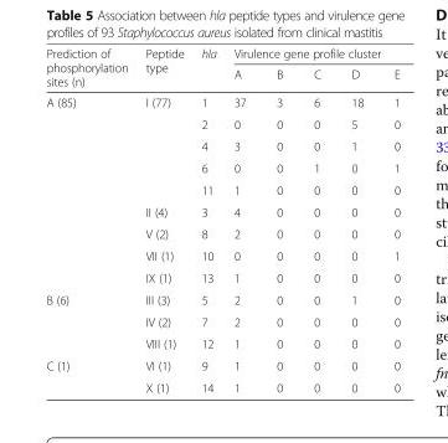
<table><thead><tr><td rowspan="2">Prediction of phosphorylation sites (n)</td><td rowspan="2">Peptide type</td><td rowspan="2">hla</td><td colspan="5">Virulence gene profile cluster</td></tr><tr><td>A</td><td>B</td><td>C</td><td>D</td><td>E</td></tr></thead><tbody><tr><td rowspan="9">A (85)</td><td rowspan="5">I (77)</td><td>1</td><td>37</td><td>3</td><td>6</td><td>18</td><td>1</td></tr><tr><td>2</td><td>0</td><td>0</td><td>0</td><td>5</td><td>0</td></tr><tr><td>4</td><td>3</td><td>0</td><td>0</td><td>1</td><td>0</td></tr><tr><td>6</td><td>0</td><td>0</td><td>1</td><td>0</td><td>1</td></tr><tr><td>11</td><td>1</td><td>0</td><td>0</td><td>0</td><td>0</td></tr><tr><td>II (4)</td><td>3</td><td>4</td><td>0</td><td>0</td><td>0</td><td>0</td></tr><tr><td>V (2)</td><td>8</td><td>2</td><td>0</td><td>0</td><td>0</td><td>0</td></tr><tr><td>VII (1)</td><td>10</td><td>0</td><td>0</td><td>0</td><td>0</td><td>1</td></tr><tr><td>IX (1)</td><td>13</td><td>1</td><td>0</td><td>0</td><td>0</td><td>0</td></tr><tr><td rowspan="3">B (6)</td><td>III (3)</td><td>5</td><td>2</td><td>0</td><td>0</td><td>1</td><td>0</td></tr><tr><td>IV (2)</td><td>7</td><td>2</td><td>0</td><td>0</td><td>0</td><td>0</td></tr><tr><td>VIII (1)</td><td>12</td><td>1</td><td>0</td><td>0</td><td>0</td><td>0</td></tr><tr><td rowspan="2">C (1)</td><td>VI (1)</td><td>9</td><td>1</td><td>0</td><td>0</td><td>0</td><td>0</td></tr><tr><td>X (1)</td><td>14</td><td>1</td><td>0</td><td>0</td><td>0</td><td>0</td></tr></tbody></table>